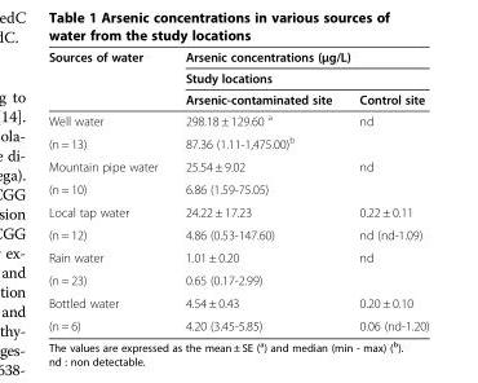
<table><thead><tr><td rowspan="3">Sources of water</td><td rowspan="2" colspan="2">Arsenic concentrations (μg/L) Study locations</td></tr><tr></tr><tr><td>Arsenic-contaminated site</td><td>Control site</td></tr></thead><tbody><tr><td>Well water</td><td>298.18 ± 129.60 <sup>a</sup></td><td rowspan="2">nd</td></tr><tr><td>(n = 13)</td><td>87.36 (1.11-1,475.00)<sup>b</sup></td></tr><tr><td>Mountain pipe water</td><td>25.54 ± 9.02</td><td rowspan="2">nd</td></tr><tr><td>(n = 10)</td><td>6.86 (1.59-75.05)</td></tr><tr><td>Local tap water</td><td>24.22 ± 17.23</td><td>0.22 ± 0.11</td></tr><tr><td>(n = 12)</td><td>4.86 (0.53-147.60)</td><td>nd (nd-1.09)</td></tr><tr><td>Rain water</td><td>1.01 ± 0.20</td><td rowspan="2">nd</td></tr><tr><td>(n = 23)</td><td>0.65 (0.17-2.99)</td></tr><tr><td>Bottled water</td><td>4.54 ± 0.43</td><td>0.20 ± 0.10</td></tr><tr><td>(n = 6)</td><td>4.20 (3.45-5.85)</td><td>0.06 (nd-1.20)</td></tr></tbody></table>